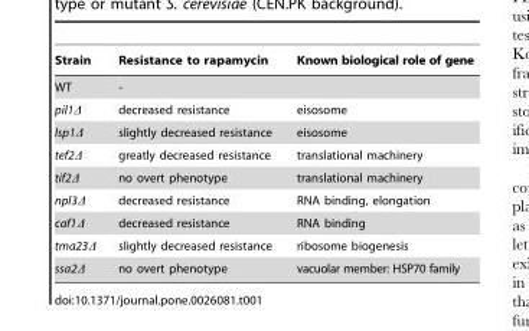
<table><thead><tr><td>Strain</td><td>Resistance to rapamycin</td><td>Known biological role of gene</td></tr></thead><tbody><tr><td>WT</td><td>-</td><td></td></tr><tr><td>pil1Δ</td><td>decreased resistance</td><td>eisosome</td></tr><tr><td>lsp1Δ</td><td>slightly decreased resistance</td><td>eisosome</td></tr><tr><td>tef2Δ</td><td>greatly decreased resistance</td><td>translational machinery</td></tr><tr><td>tif2Δ</td><td>no overt phenotype</td><td>translational machinery</td></tr><tr><td>npl3Δ</td><td>decreased resistance</td><td>RNA binding, elongation</td></tr><tr><td>caf1Δ</td><td>decreased resistance</td><td>RNA binding</td></tr><tr><td>tma23Δ</td><td>slightly decreased resistance</td><td>ribosome biogenesis</td></tr><tr><td>ssa2Δ</td><td>no overt phenotype</td><td>vacuolar member: HSP70 family</td></tr></tbody></table>